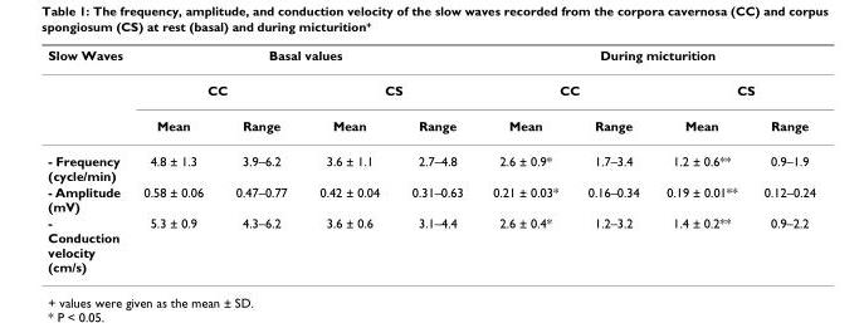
<table><thead><tr><td rowspan="3">Slow Waves</td><td colspan="4">Basal values</td><td colspan="4">During micturition</td></tr><tr><td colspan="2">CC</td><td colspan="2">CS</td><td colspan="2">CC</td><td colspan="2">CS</td></tr><tr><td>Mean</td><td>Range</td><td>Mean</td><td>Range</td><td>Mean</td><td>Range</td><td>Mean</td><td>Range</td></tr></thead><tbody><tr><td>- Frequency (cycle/min)</td><td>4.8 ± 1.3</td><td>3.9–6.2</td><td>3.6 ± 1.1</td><td>2.7–4.8</td><td>2.6 ± 0.9*</td><td>1.7–3.4</td><td>1.2 ± 0.6**</td><td>0.9–1.9</td></tr><tr><td>- Amplitude (mV)</td><td>0.58 ± 0.06</td><td>0.47–0.77</td><td>0.42 ± 0.04</td><td>0.31–0.63</td><td>0.21 ± 0.03*</td><td>0.16–0.34</td><td>0.19 ± 0.01**</td><td>0.12–0.24</td></tr><tr><td>- Conduction velocity (cm/s)</td><td>5.3 ± 0.9</td><td>4.3–6.2</td><td>3.6 ± 0.6</td><td>3.1–4.4</td><td>2.6 ± 0.4*</td><td>1.2–3.2</td><td>1.4 ± 0.2**</td><td>0.9–2.2</td></tr></tbody></table>